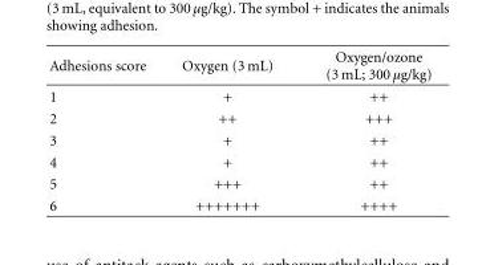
<table><thead><tr><td>Adhesions score</td><td>Oxygen (3 mL)</td><td>Oxygen/ozone (3 mL; 300 µg/kg)</td></tr></thead><tbody><tr><td>1</td><td>+</td><td>++</td></tr><tr><td>2</td><td>++</td><td>+++</td></tr><tr><td>3</td><td>+</td><td>++</td></tr><tr><td>4</td><td>+</td><td>++</td></tr><tr><td>5</td><td>+++</td><td>++</td></tr><tr><td>6</td><td>+++++++</td><td>++++</td></tr></tbody></table>